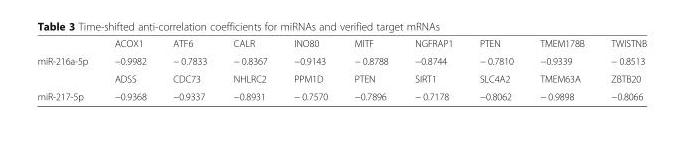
<table><thead><tr><td></td><td>ACOX1</td><td>ATF6</td><td>CALR</td><td>INO80</td><td>MITF</td><td>NGFRAP1</td><td>PTEN</td><td>TMEM178B</td><td>TWISTNB</td></tr></thead><tbody><tr><td rowspan="2">miR-216a-5p</td><td>−0.9982</td><td>− 0.7833</td><td>− 0.8367</td><td>−0.9143</td><td>− 0.8788</td><td>−0.8744</td><td>− 0.7810</td><td>−0.9339</td><td>− 0.8513</td></tr><tr><td>ADSS</td><td>CDC73</td><td>NHLRC2</td><td>PPM1D</td><td>PTEN</td><td>SIRT1</td><td>SLC4A2</td><td>TMEM63A</td><td>ZBTB20</td></tr><tr><td>miR-217-5p</td><td>−0.9368</td><td>−0.9337</td><td>−0.8931</td><td>− 0.7570</td><td>−0.7896</td><td>− 0.7178</td><td>−0.8062</td><td>− 0.9898</td><td>−0.8066</td></tr></tbody></table>